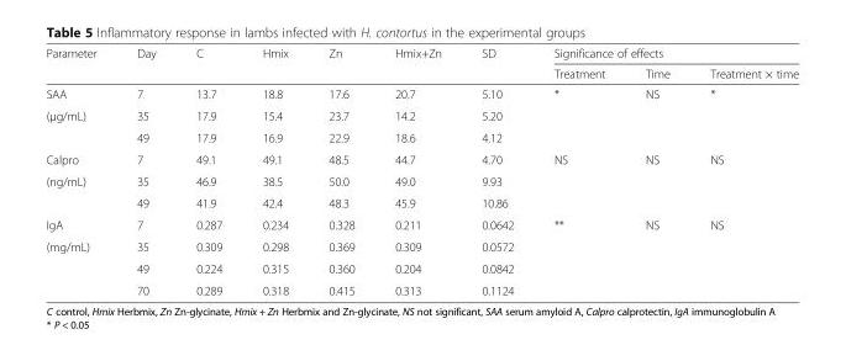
<table><thead><tr><td rowspan="2">Parameter</td><td rowspan="2">Day</td><td rowspan="2">C</td><td rowspan="2">Hmix</td><td rowspan="2">Zn</td><td rowspan="2">Hmix+Zn</td><td rowspan="2">SD</td><td colspan="3">Significance of effects</td></tr><tr><td>Treatment</td><td>Time</td><td>Treatment × time</td></tr></thead><tbody><tr><td>SAA</td><td>7</td><td>13.7</td><td>18.8</td><td>17.6</td><td>20.7</td><td>5.10</td><td>*</td><td>NS</td><td>*</td></tr><tr><td rowspan="2">(μg/mL)</td><td>35</td><td>17.9</td><td>15.4</td><td>23.7</td><td>14.2</td><td>5.20</td><td></td><td></td><td></td></tr><tr><td>49</td><td>17.9</td><td>16.9</td><td>22.9</td><td>18.6</td><td>4.12</td><td></td><td></td><td></td></tr><tr><td>Calpro</td><td>7</td><td>49.1</td><td>49.1</td><td>48.5</td><td>44.7</td><td>4.70</td><td>NS</td><td>NS</td><td>NS</td></tr><tr><td rowspan="2">(ng/mL)</td><td>35</td><td>46.9</td><td>38.5</td><td>50.0</td><td>49.0</td><td>9.93</td><td></td><td></td><td></td></tr><tr><td>49</td><td>41.9</td><td>42.4</td><td>48.3</td><td>45.9</td><td>10.86</td><td></td><td></td><td></td></tr><tr><td>IgA</td><td>7</td><td>0.287</td><td>0.234</td><td>0.328</td><td>0.211</td><td>0.0642</td><td>**</td><td>NS</td><td>NS</td></tr><tr><td rowspan="3">(mg/mL)</td><td>35</td><td>0.309</td><td>0.298</td><td>0.369</td><td>0.309</td><td>0.0572</td><td></td><td></td><td></td></tr><tr><td>49</td><td>0.224</td><td>0.315</td><td>0.360</td><td>0.204</td><td>0.0842</td><td></td><td></td><td></td></tr><tr><td>70</td><td>0.289</td><td>0.318</td><td>0.415</td><td>0.313</td><td>0.1124</td><td></td><td></td><td></td></tr></tbody></table>